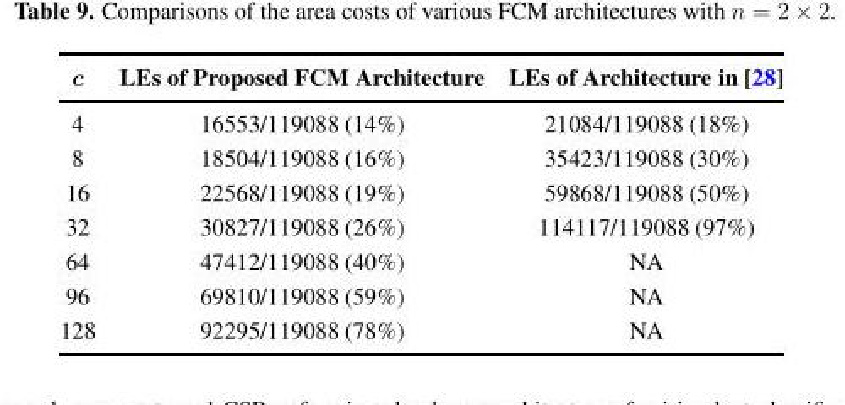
<table><thead><tr><td>c</td><td>LEs of Proposed FCM Architecture</td><td>LEs of Architecture in [28]</td></tr></thead><tbody><tr><td>4</td><td>16553/119088 (14%)</td><td>21084/119088 (18%)</td></tr><tr><td>8</td><td>18504/119088 (16%)</td><td>35423/119088 (30%)</td></tr><tr><td>16</td><td>22568/119088 (19%)</td><td>59868/119088 (50%)</td></tr><tr><td>32</td><td>30827/119088 (26%)</td><td>114117/119088 (97%)</td></tr><tr><td>64</td><td>47412/119088 (40%)</td><td>NA</td></tr><tr><td>96</td><td>69810/119088 (59%)</td><td>NA</td></tr><tr><td>128</td><td>92295/119088 (78%)</td><td>NA</td></tr></tbody></table>